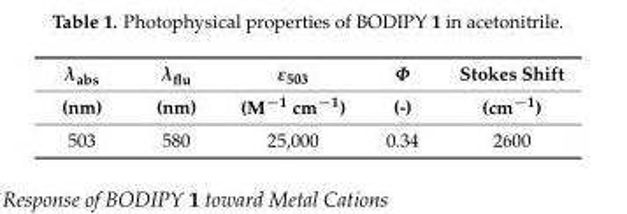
<table><thead><tr><td rowspan="2">λ<sub>abs</sub> (nm)</td><td rowspan="2">λ<sub>flu</sub> (nm)</td><td rowspan="2">ε<sub>503</sub> (M<sup>−1</sup> cm<sup>−1</sup>)</td><td rowspan="2">Φ (-)</td><td rowspan="2">Stokes Shift (cm<sup>−1</sup>)</td></tr><tr></tr></thead><tbody><tr><td>503</td><td>580</td><td>25,000</td><td>0.34</td><td>2600</td></tr></tbody></table>